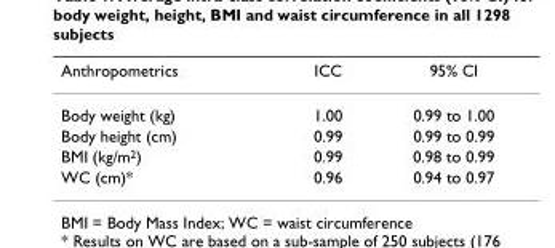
<table><thead><tr><td>Anthropometrics</td><td>ICC</td><td>95% CI</td></tr></thead><tbody><tr><td>Body weight (kg)</td><td>1.00</td><td>0.99 to 1.00</td></tr><tr><td>Body height (cm)</td><td>0.99</td><td>0.99 to 0.99</td></tr><tr><td>BMI (kg/m<sup>2</sup>)</td><td>0.99</td><td>0.98 to 0.99</td></tr><tr><td>WC (cm)*</td><td>0.96</td><td>0.94 to 0.97</td></tr></tbody></table>